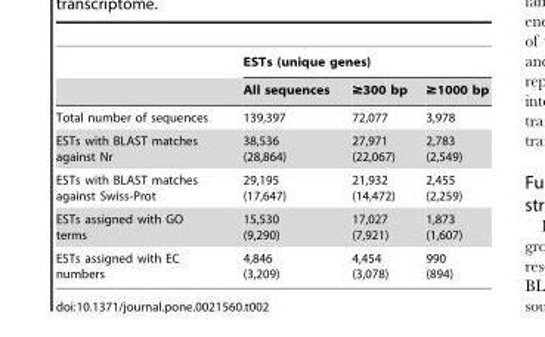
<table><thead><tr><td rowspan="2"></td><td colspan="3">ESTs (unique genes)</td></tr><tr><td>All sequences</td><td>≥300 bp</td><td>≥1000 bp</td></tr></thead><tbody><tr><td>Total number of sequences</td><td>139,397</td><td>72,077</td><td>3,978</td></tr><tr><td>ESTs with BLAST matches against Nr</td><td>38,536 (28,864)</td><td>27,971 (22,067)</td><td>2,783 (2,549)</td></tr><tr><td>ESTs with BLAST matches against Swiss-Prot</td><td>29,195 (17,647)</td><td>21,932 (14,472)</td><td>2,455 (2,259)</td></tr><tr><td>ESTs assigned with GO terms</td><td>15,530 (9,290)</td><td>17,027 (7,921)</td><td>1,873 (1,607)</td></tr><tr><td>ESTs assigned with EC numbers</td><td>4,846 (3,209)</td><td>4,454 (3,078)</td><td>990 (894)</td></tr></tbody></table>